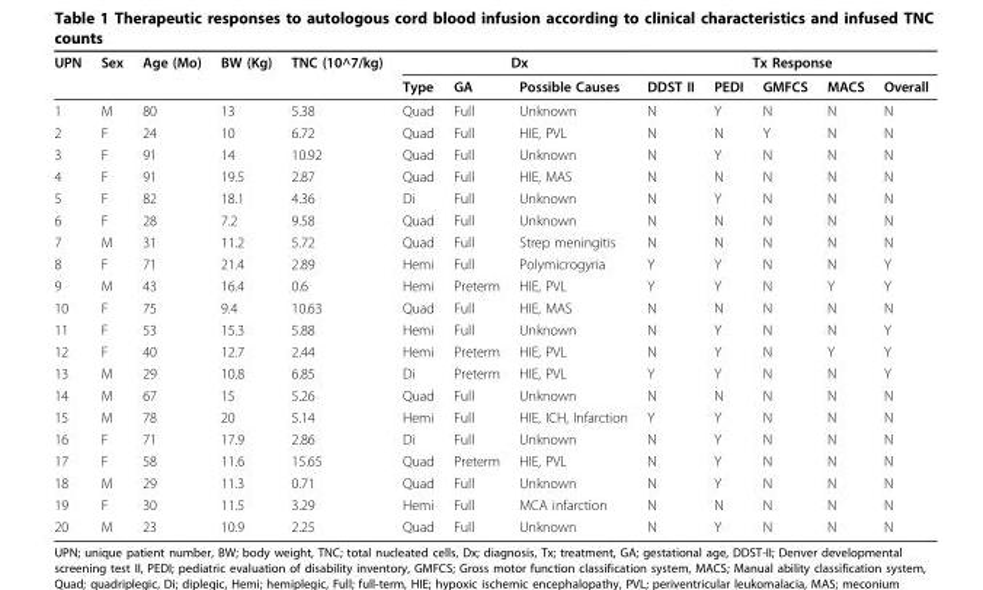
<table><thead><tr><td rowspan="2">UPN</td><td rowspan="2">Sex</td><td rowspan="2">Age (Mo)</td><td rowspan="2">BW (Kg)</td><td rowspan="2">TNC (10^7/kg)</td><td colspan="3">Dx</td><td colspan="5">Tx Response</td></tr><tr><td>Type</td><td>GA</td><td>Possible Causes</td><td>DDST II</td><td>PEDI</td><td>GMFCS</td><td>MACS</td><td>Overall</td></tr></thead><tbody><tr><td>1</td><td>M</td><td>80</td><td>13</td><td>5.38</td><td>Quad</td><td>Full</td><td>Unknown</td><td>N</td><td>Y</td><td>N</td><td>N</td><td>N</td></tr><tr><td>2</td><td>F</td><td>24</td><td>10</td><td>6.72</td><td>Quad</td><td>Full</td><td>HIE, PVL</td><td>N</td><td>N</td><td>Y</td><td>N</td><td>N</td></tr><tr><td>3</td><td>F</td><td>91</td><td>14</td><td>10.92</td><td>Quad</td><td>Full</td><td>Unknown</td><td>N</td><td>Y</td><td>N</td><td>N</td><td>N</td></tr><tr><td>4</td><td>F</td><td>91</td><td>19.5</td><td>2.87</td><td>Quad</td><td>Full</td><td>HIE, MAS</td><td>N</td><td>N</td><td>N</td><td>N</td><td>N</td></tr><tr><td>5</td><td>F</td><td>82</td><td>18.1</td><td>4.36</td><td>Di</td><td>Full</td><td>Unknown</td><td>N</td><td>Y</td><td>N</td><td>N</td><td>N</td></tr><tr><td>6</td><td>F</td><td>28</td><td>7.2</td><td>9.58</td><td>Quad</td><td>Full</td><td>Unknown</td><td>N</td><td>N</td><td>N</td><td>N</td><td>N</td></tr><tr><td>7</td><td>M</td><td>31</td><td>11.2</td><td>5.72</td><td>Quad</td><td>Full</td><td>Strep meningitis</td><td>N</td><td>N</td><td>N</td><td>N</td><td>N</td></tr><tr><td>8</td><td>F</td><td>71</td><td>21.4</td><td>2.89</td><td>Hemi</td><td>Full</td><td>Polymicrogyria</td><td>Y</td><td>Y</td><td>N</td><td>N</td><td>Y</td></tr><tr><td>9</td><td>M</td><td>43</td><td>16.4</td><td>0.6</td><td>Hemi</td><td>Preterm</td><td>HIE, PVL</td><td>Y</td><td>Y</td><td>N</td><td>Y</td><td>Y</td></tr><tr><td>10</td><td>F</td><td>75</td><td>9.4</td><td>10.63</td><td>Quad</td><td>Full</td><td>HIE, MAS</td><td>N</td><td>N</td><td>N</td><td>N</td><td>N</td></tr><tr><td>11</td><td>F</td><td>53</td><td>15.3</td><td>5.88</td><td>Hemi</td><td>Full</td><td>Unknown</td><td>N</td><td>Y</td><td>N</td><td>N</td><td>Y</td></tr><tr><td>12</td><td>F</td><td>40</td><td>12.7</td><td>2.44</td><td>Hemi</td><td>Preterm</td><td>HIE, PVL</td><td>N</td><td>Y</td><td>N</td><td>Y</td><td>Y</td></tr><tr><td>13</td><td>M</td><td>29</td><td>10.8</td><td>6.85</td><td>Di</td><td>Preterm</td><td>HIE, PVL</td><td>Y</td><td>Y</td><td>N</td><td>N</td><td>Y</td></tr><tr><td>14</td><td>M</td><td>67</td><td>15</td><td>5.26</td><td>Quad</td><td>Full</td><td>Unknown</td><td>N</td><td>N</td><td>N</td><td>N</td><td>N</td></tr><tr><td>15</td><td>M</td><td>78</td><td>20</td><td>5.14</td><td>Hemi</td><td>Full</td><td>HIE, ICH, Infarction</td><td>Y</td><td>Y</td><td>N</td><td>N</td><td>N</td></tr><tr><td>16</td><td>F</td><td>71</td><td>17.9</td><td>2.86</td><td>Di</td><td>Full</td><td>Unknown</td><td>N</td><td>Y</td><td>N</td><td>N</td><td>N</td></tr><tr><td>17</td><td>F</td><td>58</td><td>11.6</td><td>15.65</td><td>Quad</td><td>Preterm</td><td>HIE, PVL</td><td>N</td><td>Y</td><td>N</td><td>N</td><td>N</td></tr><tr><td>18</td><td>M</td><td>29</td><td>11.3</td><td>0.71</td><td>Quad</td><td>Full</td><td>Unknown</td><td>N</td><td>Y</td><td>N</td><td>N</td><td>N</td></tr><tr><td>19</td><td>F</td><td>30</td><td>11.5</td><td>3.29</td><td>Hemi</td><td>Full</td><td>MCA infarction</td><td>N</td><td>N</td><td>N</td><td>N</td><td>N</td></tr><tr><td>20</td><td>M</td><td>23</td><td>10.9</td><td>2.25</td><td>Quad</td><td>Full</td><td>Unknown</td><td>N</td><td>Y</td><td>N</td><td>N</td><td>N</td></tr></tbody></table>